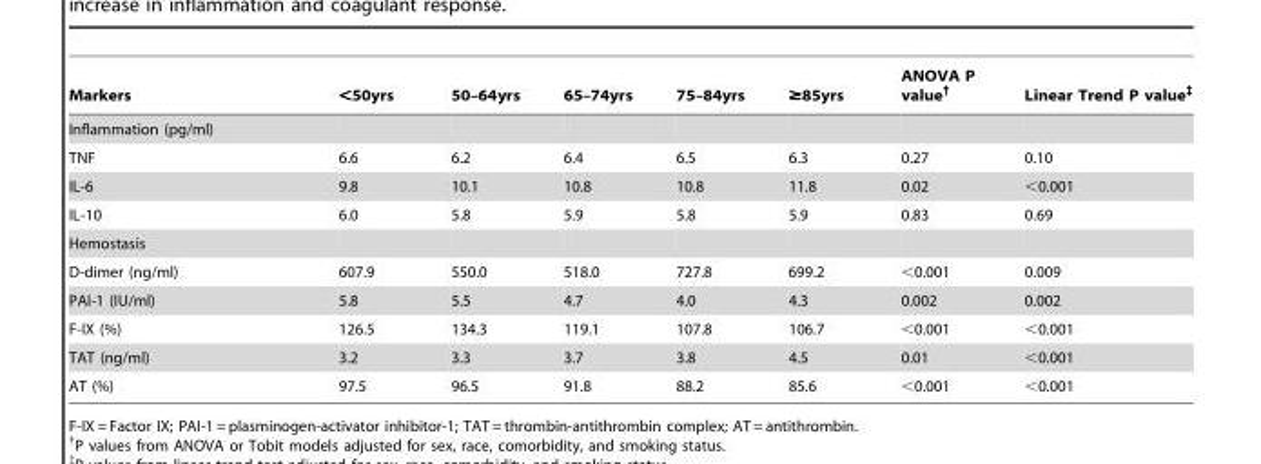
<table><thead><tr><td>Markers</td><td>&lt;50yrs</td><td>50–64yrs</td><td>65–74yrs</td><td>75–84yrs</td><td>≥85yrs</td><td>ANOVA P value†</td><td>Linear Trend P value‡</td></tr></thead><tbody><tr><td colspan="8">Inflammation (pg/ml)</td></tr><tr><td>TNF</td><td>6.6</td><td>6.2</td><td>6.4</td><td>6.5</td><td>6.3</td><td>0.27</td><td>0.10</td></tr><tr><td>IL-6</td><td>9.8</td><td>10.1</td><td>10.8</td><td>10.8</td><td>11.8</td><td>0.02</td><td>&lt;0.001</td></tr><tr><td>IL-10</td><td>6.0</td><td>5.8</td><td>5.9</td><td>5.8</td><td>5.9</td><td>0.83</td><td>0.69</td></tr><tr><td colspan="8">Hemostasis</td></tr><tr><td>D-dimer (ng/ml)</td><td>607.9</td><td>550.0</td><td>518.0</td><td>727.8</td><td>699.2</td><td>&lt;0.001</td><td>0.009</td></tr><tr><td>PAI-1 (IU/ml)</td><td>5.8</td><td>5.5</td><td>4.7</td><td>4.0</td><td>4.3</td><td>0.002</td><td>0.002</td></tr><tr><td>F-IX (%)</td><td>126.5</td><td>134.3</td><td>119.1</td><td>107.8</td><td>106.7</td><td>&lt;0.001</td><td>&lt;0.001</td></tr><tr><td>TAT (ng/ml)</td><td>3.2</td><td>3.3</td><td>3.7</td><td>3.8</td><td>4.5</td><td>0.01</td><td>&lt;0.001</td></tr><tr><td>AT (%)</td><td>97.5</td><td>96.5</td><td>91.8</td><td>88.2</td><td>85.6</td><td>&lt;0.001</td><td>&lt;0.001</td></tr></tbody></table>